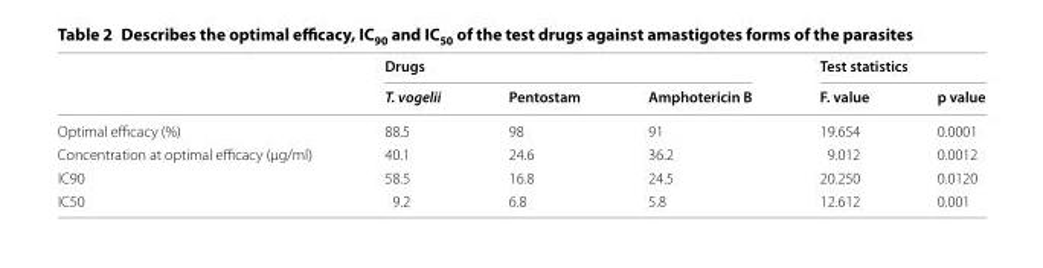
<table><thead><tr><td rowspan="2"></td><td colspan="3">Drugs</td><td colspan="2">Test statistics</td></tr><tr><td>T. vogelii</td><td>Pentostam</td><td>Amphotericin B</td><td>F. value</td><td>p value</td></tr></thead><tbody><tr><td>Optimal efficacy (%)</td><td>88.5</td><td>98</td><td>91</td><td>19.654</td><td>0.0001</td></tr><tr><td>Concentration at optimal efficacy (μg/ml)</td><td>40.1</td><td>24.6</td><td>36.2</td><td>9.012</td><td>0.0012</td></tr><tr><td>IC90</td><td>58.5</td><td>16.8</td><td>24.5</td><td>20.250</td><td>0.0120</td></tr><tr><td>IC50</td><td>9.2</td><td>6.8</td><td>5.8</td><td>12.612</td><td>0.001</td></tr></tbody></table>